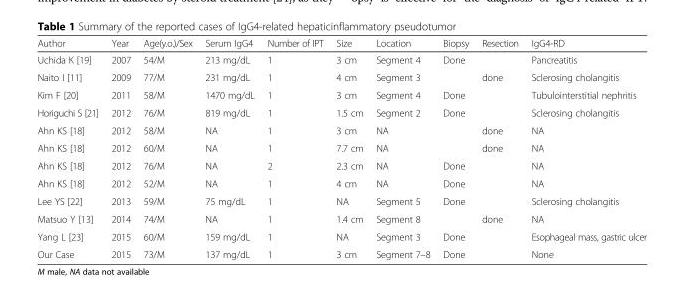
<table><thead><tr><td>Author</td><td>Year</td><td>Age(y.o.)/Sex</td><td>Serum IgG4</td><td>Number of IPT</td><td>Size</td><td>Location</td><td>Biopsy</td><td>Resection</td><td>IgG4-RD</td></tr></thead><tbody><tr><td>Uchida K [19]</td><td>2007</td><td>54/M</td><td>213 mg/dL</td><td>1</td><td>3 cm</td><td>Segment 4</td><td>Done</td><td></td><td>Pancreatitis</td></tr><tr><td>Naito I [11]</td><td>2009</td><td>77/M</td><td>231 mg/dL</td><td>1</td><td>4 cm</td><td>Segment 3</td><td></td><td>done</td><td>Sclerosing cholangitis</td></tr><tr><td>Kim F [20]</td><td>2011</td><td>58/M</td><td>1470 mg/dL</td><td>1</td><td>3 cm</td><td>Segment 4</td><td>Done</td><td></td><td>Tubulointerstitial nephritis</td></tr><tr><td>Horiguchi S [21]</td><td>2012</td><td>76/M</td><td>819 mg/dL</td><td>1</td><td>1.5 cm</td><td>Segment 2</td><td>Done</td><td></td><td>Sclerosing cholangitis</td></tr><tr><td>Ahn KS [18]</td><td>2012</td><td>58/M</td><td>NA</td><td>1</td><td>3 cm</td><td>NA</td><td></td><td>done</td><td>NA</td></tr><tr><td>Ahn KS [18]</td><td>2012</td><td>60/M</td><td>NA</td><td>1</td><td>7.7 cm</td><td>NA</td><td></td><td>done</td><td>NA</td></tr><tr><td>Ahn KS [18]</td><td>2012</td><td>76/M</td><td>NA</td><td>2</td><td>2.3 cm</td><td>NA</td><td>Done</td><td></td><td>NA</td></tr><tr><td>Ahn KS [18]</td><td>2012</td><td>52/M</td><td>NA</td><td>1</td><td>4 cm</td><td>NA</td><td>Done</td><td></td><td>NA</td></tr><tr><td>Lee YS [22]</td><td>2013</td><td>59/M</td><td>75 mg/dL</td><td>1</td><td>NA</td><td>Segment 5</td><td>Done</td><td></td><td>Sclerosing cholangitis</td></tr><tr><td>Matsuo Y [13]</td><td>2014</td><td>74/M</td><td>NA</td><td>1</td><td>1.4 cm</td><td>Segment 8</td><td></td><td>done</td><td>NA</td></tr><tr><td>Yang L [23]</td><td>2015</td><td>60/M</td><td>159 mg/dL</td><td>1</td><td>NA</td><td>Segment 3</td><td>Done</td><td></td><td>Esophageal mass, gastric ulcer</td></tr><tr><td>Our Case</td><td>2015</td><td>73/M</td><td>137 mg/dL</td><td>1</td><td>3 cm</td><td>Segment 7–8</td><td>Done</td><td></td><td>None</td></tr></tbody></table>